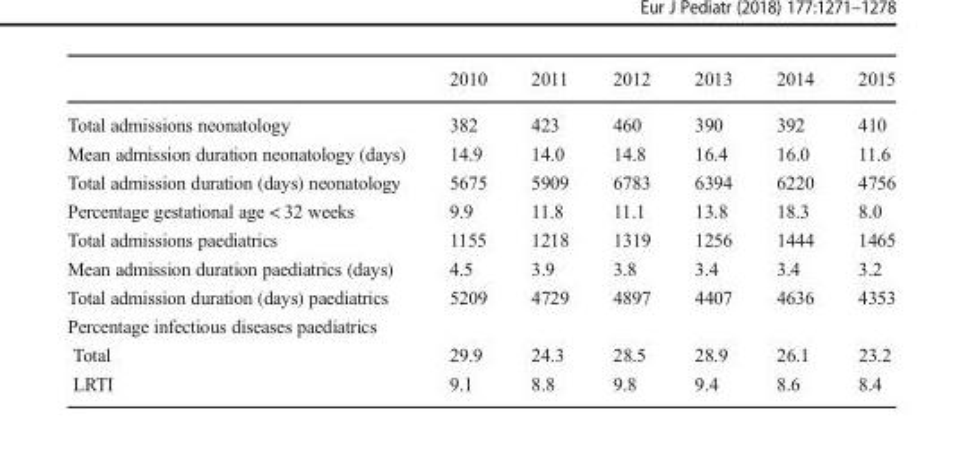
<table><thead><tr><td></td><td>2010</td><td>2011</td><td>2012</td><td>2013</td><td>2014</td><td>2015</td></tr></thead><tbody><tr><td>Total admissions neonatology</td><td>382</td><td>423</td><td>460</td><td>390</td><td>392</td><td>410</td></tr><tr><td>Mean admission duration neonatology (days)</td><td>14.9</td><td>14.0</td><td>14.8</td><td>16.4</td><td>16.0</td><td>11.6</td></tr><tr><td>Total admission duration (days) neonatology</td><td>5675</td><td>5909</td><td>6783</td><td>6394</td><td>6220</td><td>4756</td></tr><tr><td>Percentage gestational age &lt; 32 weeks</td><td>9.9</td><td>11.8</td><td>11.1</td><td>13.8</td><td>18.3</td><td>8.0</td></tr><tr><td>Total admissions paediatrics</td><td>1155</td><td>1218</td><td>1319</td><td>1256</td><td>1444</td><td>1465</td></tr><tr><td>Mean admission duration paediatrics (days)</td><td>4.5</td><td>3.9</td><td>3.8</td><td>3.4</td><td>3.4</td><td>3.2</td></tr><tr><td>Total admission duration (days) paediatrics</td><td>5209</td><td>4729</td><td>4897</td><td>4407</td><td>4636</td><td>4353</td></tr><tr><td colspan="7">Percentage infectious diseases paediatrics</td></tr><tr><td>Total</td><td>29.9</td><td>24.3</td><td>28.5</td><td>28.9</td><td>26.1</td><td>23.2</td></tr><tr><td>LRTI</td><td>9.1</td><td>8.8</td><td>9.8</td><td>9.4</td><td>8.6</td><td>8.4</td></tr></tbody></table>